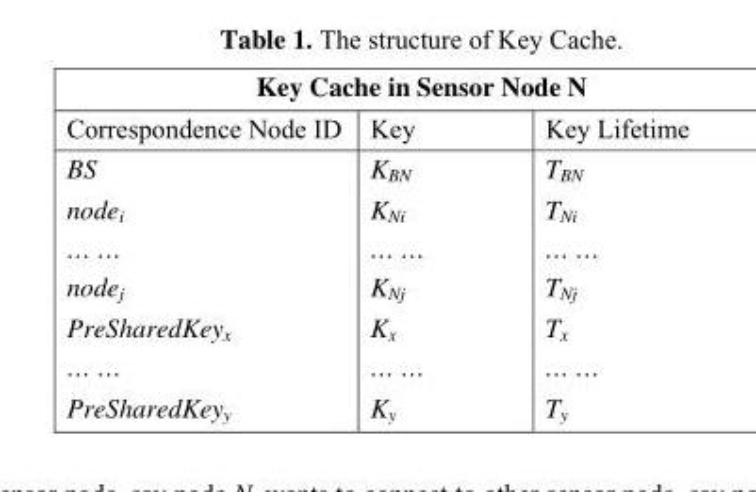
<table><thead><tr><td colspan="3">Key Cache in Sensor Node N</td></tr><tr><td>Correspondence Node ID</td><td>Key</td><td>Key Lifetime</td></tr></thead><tbody><tr><td>BS</td><td>K<sub>BN</sub></td><td>T<sub>BN</sub></td></tr><tr><td>node<sub>i</sub></td><td>K<sub>Ni</sub></td><td>T<sub>Ni</sub></td></tr><tr><td>… …</td><td>… …</td><td>… …</td></tr><tr><td>node<sub>j</sub></td><td>K<sub>Nj</sub></td><td>T<sub>Nj</sub></td></tr><tr><td>PreSharedKey<sub>x</sub></td><td>K<sub>x</sub></td><td>T<sub>x</sub></td></tr><tr><td>… …</td><td>… …</td><td>… …</td></tr><tr><td>PreSharedKey<sub>y</sub></td><td>K<sub>y</sub></td><td>T<sub>y</sub></td></tr></tbody></table>